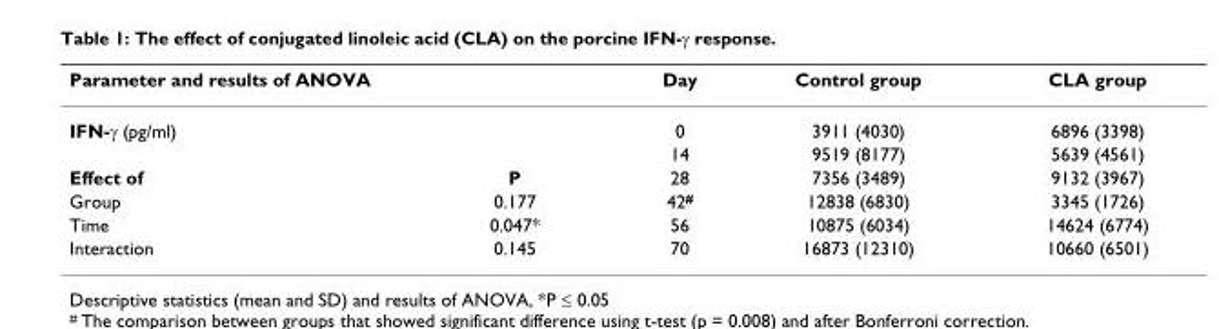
<table><thead><tr><td colspan="2">Parameter and results of ANOVA</td><td rowspan="2">Day 0</td><td rowspan="2">Control group 3911 (4030)</td><td rowspan="2">CLA group 6896 (3398)</td></tr><tr><td>IFN-γ (pg/ml)</td><td></td></tr></thead><tbody><tr><td></td><td></td><td>14</td><td>9519 (8177)</td><td>5639 (4561)</td></tr><tr><td>Effect of</td><td>P</td><td>28</td><td>7356 (3489)</td><td>9132 (3967)</td></tr><tr><td>Group</td><td>0.177</td><td>42<sup>#</sup></td><td>12838 (6830)</td><td>3345 (1726)</td></tr><tr><td>Time</td><td>0.047*</td><td>56</td><td>10875 (6034)</td><td>14624 (6774)</td></tr><tr><td>Interaction</td><td>0.145</td><td>70</td><td>16873 (12310)</td><td>10660 (6501)</td></tr></tbody></table>